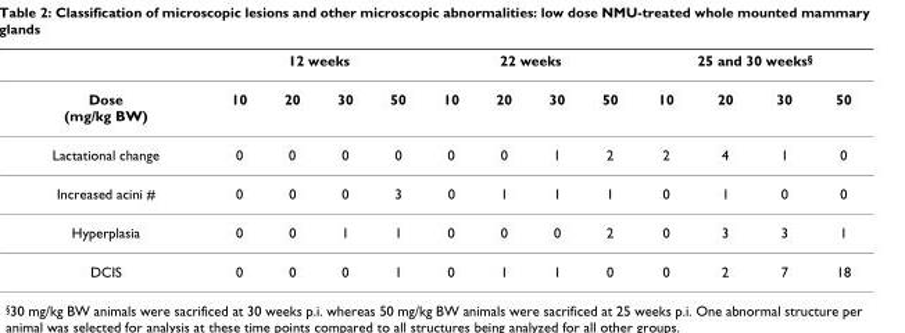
<table><thead><tr><td rowspan="2">Dose (mg/kg BW)</td><td colspan="4">12 weeks</td><td colspan="4">22 weeks</td><td colspan="4">25 and 30 weeks<sup>§</sup></td></tr><tr><td>10</td><td>20</td><td>30</td><td>50</td><td>10</td><td>20</td><td>30</td><td>50</td><td>10</td><td>20</td><td>30</td><td>50</td></tr></thead><tbody><tr><td>Lactational change</td><td>0</td><td>0</td><td>0</td><td>0</td><td>0</td><td>0</td><td>1</td><td>2</td><td>2</td><td>4</td><td>1</td><td>0</td></tr><tr><td>Increased acini #</td><td>0</td><td>0</td><td>0</td><td>3</td><td>0</td><td>1</td><td>1</td><td>1</td><td>0</td><td>1</td><td>0</td><td>0</td></tr><tr><td>Hyperplasia</td><td>0</td><td>0</td><td>1</td><td>1</td><td>0</td><td>0</td><td>0</td><td>2</td><td>0</td><td>3</td><td>3</td><td>1</td></tr><tr><td>DCIS</td><td>0</td><td>0</td><td>0</td><td>1</td><td>0</td><td>1</td><td>1</td><td>0</td><td>0</td><td>2</td><td>7</td><td>18</td></tr></tbody></table>